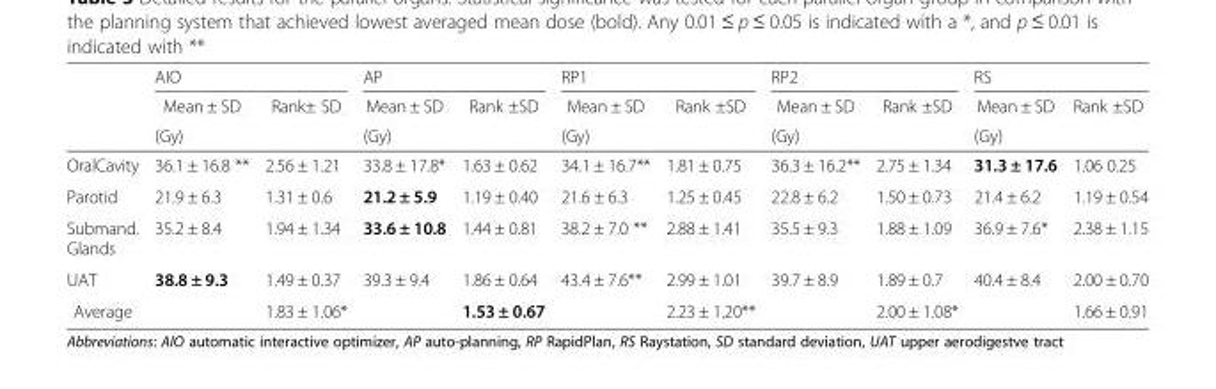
<table><thead><tr><td rowspan="3"></td><td colspan="2">AIO</td><td colspan="2">AP</td><td colspan="2">RP1</td><td colspan="2">RP2</td><td colspan="2">RS</td></tr><tr><td rowspan="2">Mean ± SD (Gy)</td><td rowspan="2">Rank± SD</td><td rowspan="2">Mean ± SD (Gy)</td><td rowspan="2">Rank ±SD</td><td rowspan="2">Mean ± SD (Gy)</td><td rowspan="2">Rank ±SD</td><td rowspan="2">Mean ± SD (Gy)</td><td rowspan="2">Rank ±SD</td><td rowspan="2">Mean ± SD (Gy)</td><td rowspan="2">Rank ±SD</td></tr><tr></tr></thead><tbody><tr><td>OralCavity</td><td>36.1 ± 16.8 **</td><td>2.56 ± 1.21</td><td>33.8 ± 17.8*</td><td>1.63 ± 0.62</td><td>34.1 ± 16.7**</td><td>1.81 ± 0.75</td><td>36.3 ± 16.2**</td><td>2.75 ± 1.34</td><td>31.3 ± 17.6</td><td>1.06 0.25</td></tr><tr><td>Parotid</td><td>21.9 ± 6.3</td><td>1.31 ± 0.6</td><td>21.2 ± 5.9</td><td>1.19 ± 0.40</td><td>21.6 ± 6.3</td><td>1.25 ± 0.45</td><td>22.8 ± 6.2</td><td>1.50 ± 0.73</td><td>21.4 ± 6.2</td><td>1.19 ± 0.54</td></tr><tr><td>Submand. Glands</td><td>35.2 ± 8.4</td><td>1.94 ± 1.34</td><td>33.6 ± 10.8</td><td>1.44 ± 0.81</td><td>38.2 ± 7.0 **</td><td>2.88 ± 1.41</td><td>35.5 ± 9.3</td><td>1.88 ± 1.09</td><td>36.9 ± 7.6*</td><td>2.38 ± 1.15</td></tr><tr><td>UAT</td><td>38.8 ± 9.3</td><td>1.49 ± 0.37</td><td>39.3 ± 9.4</td><td>1.86 ± 0.64</td><td>43.4 ± 7.6**</td><td>2.99 ± 1.01</td><td>39.7 ± 8.9</td><td>1.89 ± 0.7</td><td>40.4 ± 8.4</td><td>2.00 ± 0.70</td></tr><tr><td>Average</td><td></td><td>1.83 ± 1.06*</td><td></td><td>1.53 ± 0.67</td><td></td><td>2.23 ± 1.20**</td><td></td><td>2.00 ± 1.08*</td><td></td><td>1.66 ± 0.91</td></tr></tbody></table>